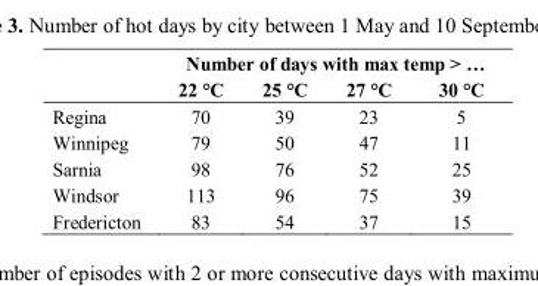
<table><thead><tr><td rowspan="2"></td><td colspan="4">Number of days with max temp &gt; …</td></tr><tr><td>22 °C</td><td>25 °C</td><td>27 °C</td><td>30 °C</td></tr></thead><tbody><tr><td>Regina</td><td>70</td><td>39</td><td>23</td><td>5</td></tr><tr><td>Winnipeg</td><td>79</td><td>50</td><td>47</td><td>11</td></tr><tr><td>Sarnia</td><td>98</td><td>76</td><td>52</td><td>25</td></tr><tr><td>Windsor</td><td>113</td><td>96</td><td>75</td><td>39</td></tr><tr><td>Fredericton</td><td>83</td><td>54</td><td>37</td><td>15</td></tr></tbody></table>